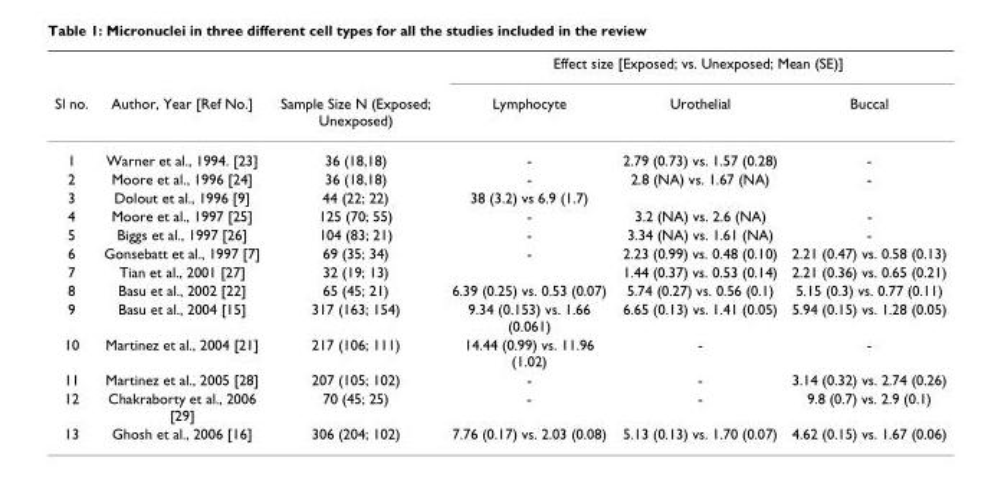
<table><thead><tr><td rowspan="2">Sl no.</td><td rowspan="2">Author, Year [Ref No.]</td><td rowspan="2">Sample Size N (Exposed; Unexposed)</td><td colspan="3">Effect size [Exposed; vs. Unexposed; Mean (SE)]</td></tr><tr><td>Lymphocyte</td><td>Urothelial</td><td>Buccal</td></tr></thead><tbody><tr><td>1</td><td>Warner et al., 1994. [23]</td><td>36 (18,18)</td><td>-</td><td>2.79 (0.73) vs. 1.57 (0.28)</td><td>-</td></tr><tr><td>2</td><td>Moore et al., 1996 [24]</td><td>36 (18,18)</td><td>-</td><td>2.8 (NA) vs. 1.67 (NA)</td><td>-</td></tr><tr><td>3</td><td>Dolout et al., 1996 [9]</td><td>44 (22; 22)</td><td>38 (3.2) vs 6.9 (1.7)</td><td></td><td></td></tr><tr><td>4</td><td>Moore et al., 1997 [25]</td><td>125 (70; 55)</td><td>-</td><td>3.2 (NA) vs. 2.6 (NA)</td><td>-</td></tr><tr><td>5</td><td>Biggs et al., 1997 [26]</td><td>104 (83; 21)</td><td>-</td><td>3.34 (NA) vs. 1.61 (NA)</td><td>-</td></tr><tr><td>6</td><td>Gonsebatt et al., 1997 [7]</td><td>69 (35; 34)</td><td>-</td><td>2.23 (0.99) vs. 0.48 (0.10)</td><td>2.21 (0.47) vs. 0.58 (0.13)</td></tr><tr><td>7</td><td>Tian et al., 2001 [27]</td><td>32 (19; 13)</td><td></td><td>1.44 (0.37) vs. 0.53 (0.14)</td><td>2.21 (0.36) vs. 0.65 (0.21)</td></tr><tr><td>8</td><td>Basu et al., 2002 [22]</td><td>65 (45; 21)</td><td>6.39 (0.25) vs. 0.53 (0.07)</td><td>5.74 (0.27) vs. 0.56 (0.1)</td><td>5.15 (0.3) vs. 0.77 (0.11)</td></tr><tr><td>9</td><td>Basu et al., 2004 [15]</td><td>317 (163; 154)</td><td>9.34 (0.153) vs. 1.66 (0.061)</td><td>6.65 (0.13) vs. 1.41 (0.05)</td><td>5.94 (0.15) vs. 1.28 (0.05)</td></tr><tr><td>10</td><td>Martinez et al., 2004 [21]</td><td>217 (106; 111)</td><td>14.44 (0.99) vs. 11.96 (1.02)</td><td>-</td><td>-</td></tr><tr><td>11</td><td>Martinez et al., 2005 [28]</td><td>207 (105; 102)</td><td>-</td><td>-</td><td>3.14 (0.32) vs. 2.74 (0.26)</td></tr><tr><td>12</td><td>Chakraborty et al., 2006 [29]</td><td>70 (45; 25)</td><td>-</td><td>-</td><td>9.8 (0.7) vs. 2.9 (0.1)</td></tr><tr><td>13</td><td>Ghosh et al., 2006 [16]</td><td>306 (204; 102)</td><td>7.76 (0.17) vs. 2.03 (0.08)</td><td>5.13 (0.13) vs. 1.70 (0.07)</td><td>4.62 (0.15) vs. 1.67 (0.06)</td></tr></tbody></table>